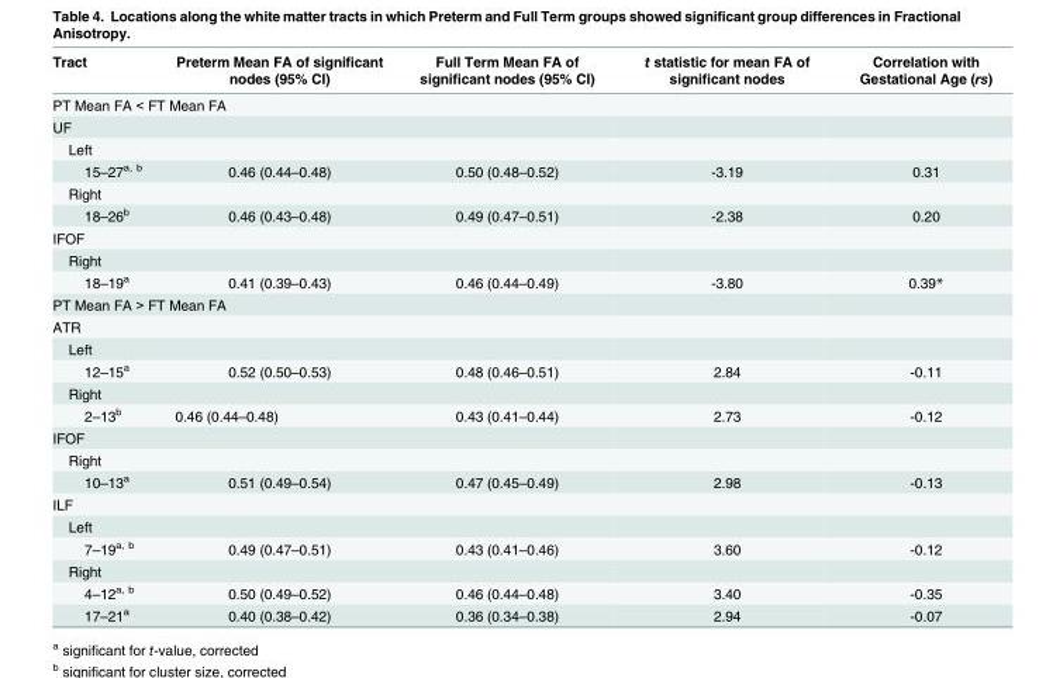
<table><thead><tr><td>Tract</td><td>Preterm Mean FA of significant nodes (95% CI)</td><td>Full Term Mean FA of significant nodes (95% CI)</td><td>t statistic for mean FA of significant nodes</td><td>Correlation with Gestational Age (rs)</td></tr></thead><tbody><tr><td colspan="5">PT Mean FA &lt; FT Mean FA</td></tr><tr><td colspan="5">UF</td></tr><tr><td colspan="5">Left</td></tr><tr><td>15–27<sup>a, b</sup></td><td>0.46 (0.44–0.48)</td><td>0.50 (0.48–0.52)</td><td>-3.19</td><td>0.31</td></tr><tr><td colspan="5">Right</td></tr><tr><td>18–26<sup>b</sup></td><td>0.46 (0.43–0.48)</td><td>0.49 (0.47–0.51)</td><td>-2.38</td><td>0.20</td></tr><tr><td colspan="5">IFOF</td></tr><tr><td colspan="5">Right</td></tr><tr><td>18–19<sup>a</sup></td><td>0.41 (0.39–0.43)</td><td>0.46 (0.44–0.49)</td><td>-3.80</td><td>0.39*</td></tr><tr><td colspan="5">PT Mean FA &gt; FT Mean FA</td></tr><tr><td colspan="5">ATR</td></tr><tr><td colspan="5">Left</td></tr><tr><td>12–15<sup>a</sup></td><td>0.52 (0.50–0.53)</td><td>0.48 (0.46–0.51)</td><td>2.84</td><td>-0.11</td></tr><tr><td colspan="5">Right</td></tr><tr><td>2–13<sup>b</sup></td><td>0.46 (0.44–0.48)</td><td>0.43 (0.41–0.44)</td><td>2.73</td><td>-0.12</td></tr><tr><td colspan="5">IFOF</td></tr><tr><td colspan="5">Right</td></tr><tr><td>10–13<sup>a</sup></td><td>0.51 (0.49–0.54)</td><td>0.47 (0.45–0.49)</td><td>2.98</td><td>-0.13</td></tr><tr><td colspan="5">ILF</td></tr><tr><td colspan="5">Left</td></tr><tr><td>7–19<sup>a, b</sup></td><td>0.49 (0.47–0.51)</td><td>0.43 (0.41–0.46)</td><td>3.60</td><td>-0.12</td></tr><tr><td colspan="5">Right</td></tr><tr><td>4–12<sup>a, b</sup></td><td>0.50 (0.49–0.52)</td><td>0.46 (0.44–0.48)</td><td>3.40</td><td>-0.35</td></tr><tr><td>17–21<sup>a</sup></td><td>0.40 (0.38–0.42)</td><td>0.36 (0.34–0.38)</td><td>2.94</td><td>-0.07</td></tr></tbody></table>